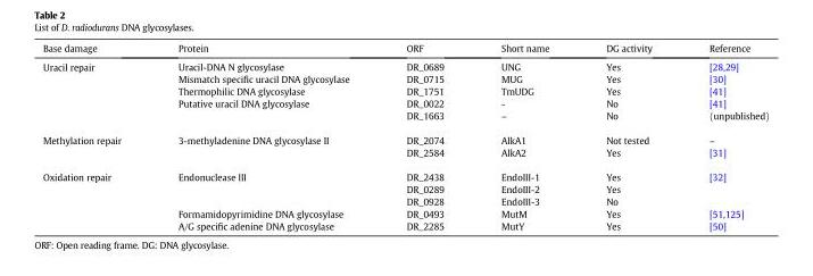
<table><thead><tr><td>Base damage</td><td>Protein</td><td>ORF</td><td>Short name</td><td>DG activity</td><td>Reference</td></tr></thead><tbody><tr><td rowspan="5">Uracil repair</td><td>Uracil-DNA N glycosylase</td><td>DR_0689</td><td>UNG</td><td>Yes</td><td>[28,29]</td></tr><tr><td>Mismatch specific uracil DNA glycosylase</td><td>DR_0715</td><td>MUG</td><td>Yes</td><td>[30]</td></tr><tr><td>Thermophilic DNA glycosylase</td><td>DR_1751</td><td>TmUDG</td><td>Yes</td><td>[41]</td></tr><tr><td rowspan="2">Putative uracil DNA glycosylase</td><td>DR_0022</td><td>-</td><td>No</td><td>[41]</td></tr><tr><td>DR_1663</td><td>–</td><td>No</td><td>(unpublished)</td></tr><tr><td rowspan="2">Methylation repair</td><td rowspan="2">3-methyladenine DNA glycosylase II</td><td>DR_2074</td><td>AlkA1</td><td>Not tested</td><td>–</td></tr><tr><td>DR_2584</td><td>AlkA2</td><td>Yes</td><td>[31]</td></tr><tr><td rowspan="5">Oxidation repair</td><td rowspan="3">Endonuclease III</td><td>DR_2438</td><td>EndoIII-1</td><td>Yes</td><td rowspan="3">[32]</td></tr><tr><td>DR_0289</td><td>EndoIII-2</td><td>Yes</td></tr><tr><td>DR_0928</td><td>EndoIII-3</td><td>No</td></tr><tr><td>Formamidopyrimidine DNA glycosylase</td><td>DR_0493</td><td>MutM</td><td>Yes</td><td>[51,125]</td></tr><tr><td>A/G specific adenine DNA glycosylase</td><td>DR_2285</td><td>MutY</td><td>Yes</td><td>[50]</td></tr></tbody></table>